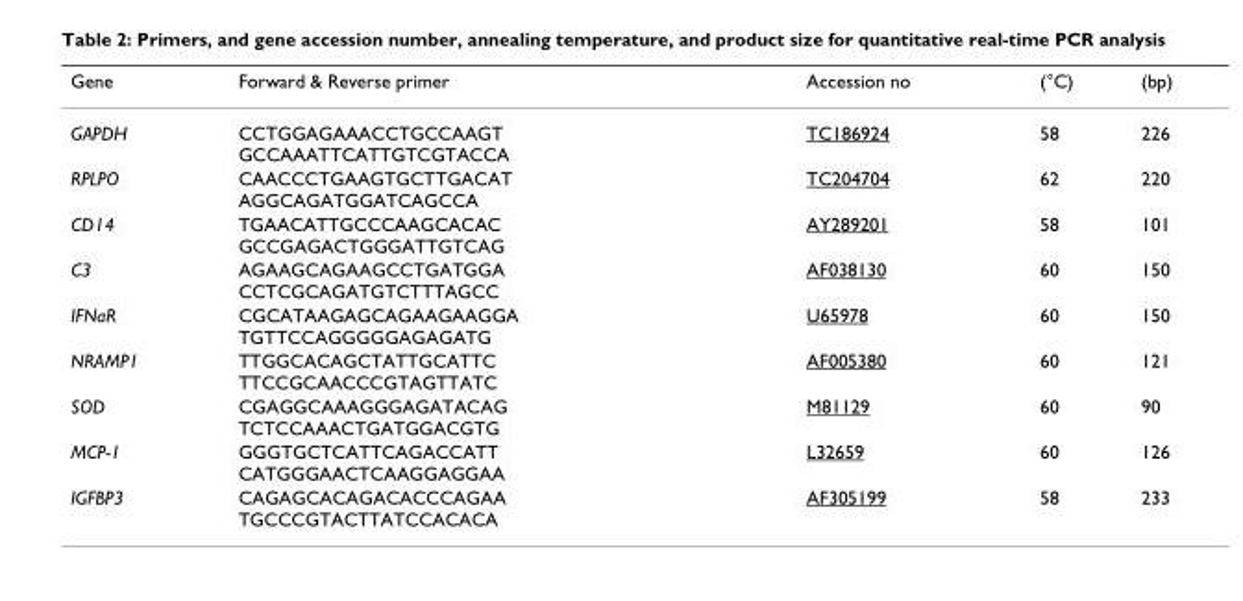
<table><thead><tr><td>Gene</td><td>Forward &amp; Reverse primer</td><td>Accession no</td><td>(°C)</td><td>(bp)</td></tr></thead><tbody><tr><td>GAPDH</td><td>CCTGGAGAAACCTGCCAAGT GCCAAATTCATTGTCGTACCA</td><td>TC186924</td><td>58</td><td>226</td></tr><tr><td>RPLPO</td><td>CAACCCTGAAGTGCTTGACAT AGGCAGATGGATCAGCCA</td><td>TC204704</td><td>62</td><td>220</td></tr><tr><td>CD14</td><td>TGAACATTGCCCAAGCACAC GCCGAGACTGGGATTGTCAG</td><td>AY289201</td><td>58</td><td>101</td></tr><tr><td>C3</td><td>AGAAGCAGAAGCCTGATGGA CCTCGCAGATGTCTTTAGCC</td><td>AF038130</td><td>60</td><td>150</td></tr><tr><td>IFNaR</td><td>CGCATAAGAGCAGAAGAAGGA TGTTCCAGGGGGAGAGATG</td><td>U65978</td><td>60</td><td>150</td></tr><tr><td>NRAMP1</td><td>TTGGCACAGCTATTGCATTC TTCCGCAACCCGTAGTTATC</td><td>AF005380</td><td>60</td><td>121</td></tr><tr><td>SOD</td><td>CGAGGCAAAGGGAGATACAG TCTCCAAACTGATGGACGTG</td><td>M81129</td><td>60</td><td>90</td></tr><tr><td>MCP-1</td><td>GGGTGCTCATTCAGACCATT CATGGGAACTCAAGGAGGAA</td><td>L32659</td><td>60</td><td>126</td></tr><tr><td>IGFBP3</td><td>CAGAGCACAGACACCCAGAA TGCCCGTACTTATCCACACA</td><td>AF305199</td><td>58</td><td>233</td></tr></tbody></table>